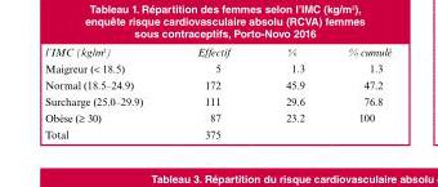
<table><thead><tr><td>l’IMC (kg/m<sup>2</sup>)</td><td>Effectif</td><td>%</td><td>% cumulé</td></tr></thead><tbody><tr><td>Maigreur (&lt; 18.5)</td><td>5</td><td>1.3</td><td>1.3</td></tr><tr><td>Normal (18.5–24.9)</td><td>172</td><td>45.9</td><td>47.2</td></tr><tr><td>Surcharge (25.0–29.9)</td><td>111</td><td>29.6</td><td>76.8</td></tr><tr><td>Obèse (≥ 30)</td><td>87</td><td>23.2</td><td>100</td></tr><tr><td>Total</td><td>375</td><td></td><td></td></tr></tbody></table>